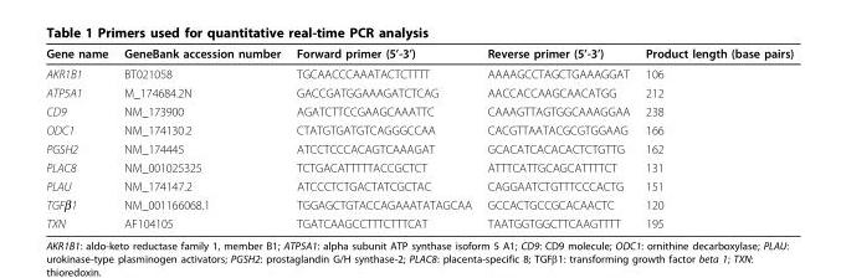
<table><thead><tr><td>Gene name</td><td>GeneBank accession number</td><td>Forward primer (5’-3’)</td><td>Reverse primer (5’-3’)</td><td>Product length (base pairs)</td></tr></thead><tbody><tr><td>AKR1B1</td><td>BT021058</td><td>TGCAACCCAAATACTCTTTT</td><td>AAAAGCCTAGCTGAAAGGAT</td><td>106</td></tr><tr><td>ATP5A1</td><td>M_174684.2N</td><td>GACCGATGGAAAGATCTCAG</td><td>AACCACCAAGCAACATGG</td><td>212</td></tr><tr><td>CD9</td><td>NM_173900</td><td>AGATCTTCCGAAGCAAATTC</td><td>CAAAGTTAGTGGCAAAGGAA</td><td>238</td></tr><tr><td>ODC1</td><td>NM_174130.2</td><td>CTATGTGATGTCAGGGCCAA</td><td>CACGTTAATACGCGTGGAAG</td><td>166</td></tr><tr><td>PGSH2</td><td>NM_174445</td><td>ATCCTCCCACAGTCAAAGAT</td><td>GCACATCACACACTCTGTTG</td><td>162</td></tr><tr><td>PLAC8</td><td>NM_001025325</td><td>TCTGACATTTTTACCGCTCT</td><td>ATTTCATTGCAGCATTTTCT</td><td>131</td></tr><tr><td>PLAU</td><td>NM_174147.2</td><td>ATCCCTCTGACTATCGCTAC</td><td>CAGGAATCTGTTTCCCACTG</td><td>151</td></tr><tr><td>TGFβ1</td><td>NM_001166068.1</td><td>TGGAGCTGTACCAGAAATATAGCAA</td><td>GCCACTGCCGCACAACTC</td><td>120</td></tr><tr><td>TXN</td><td>AF104105</td><td>TGATCAAGCCTTTCTTTCAT</td><td>TAATGGTGGCTTCAAGTTTT</td><td>195</td></tr></tbody></table>